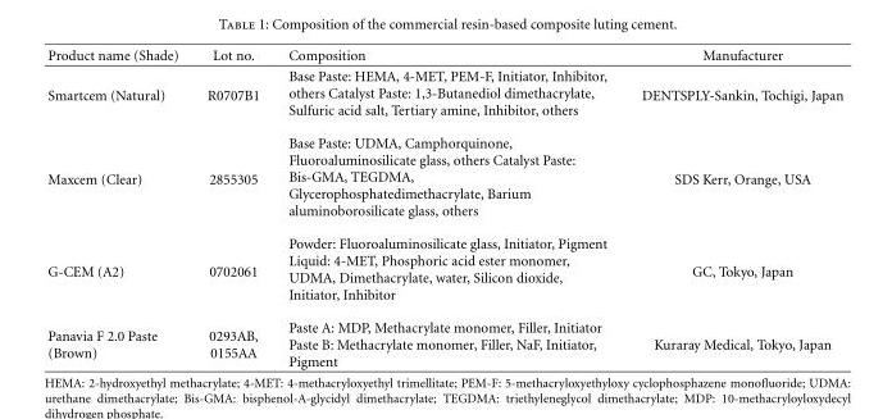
<table><thead><tr><td>Product name (Shade)</td><td>Lot no.</td><td>Composition</td><td>Manufacturer</td></tr></thead><tbody><tr><td>Smartcem (Natural)</td><td>R0707B1</td><td>Base Paste: HEMA, 4-MET, PEM-F, Initiator, Inhibitor, others Catalyst Paste: 1,3-Butanediol dimethacrylate, Sulfuric acid salt, Tertiary amine, Inhibitor, others</td><td>DENTSPLY-Sankin, Tochigi, Japan</td></tr><tr><td>Maxcem (Clear)</td><td>2855305</td><td>Base Paste: UDMA, Camphorquinone, Fluoroaluminosilicate glass, others Catalyst Paste: Bis-GMA, TEGDMA, Glycerophosphatedimethacrylate, Barium aluminoborosilicate glass, others</td><td>SDS Kerr, Orange, USA</td></tr><tr><td>G-CEM (A2)</td><td>0702061</td><td>Powder: Fluoroaluminosilicate glass, Initiator, Pigment Liquid: 4-MET, Phosphoric acid ester monomer, UDMA, Dimethacrylate, water, Silicon dioxide, Initiator, Inhibitor</td><td>GC, Tokyo, Japan</td></tr><tr><td>Panavia F 2.0 Paste (Brown)</td><td>0293AB, 0155AA</td><td>Paste A: MDP, Methacrylate monomer, Filler, Initiator Paste B: Methacrylate monomer, Filler, NaF, Initiator, Pigment</td><td>Kuraray Medical, Tokyo, Japan</td></tr></tbody></table>